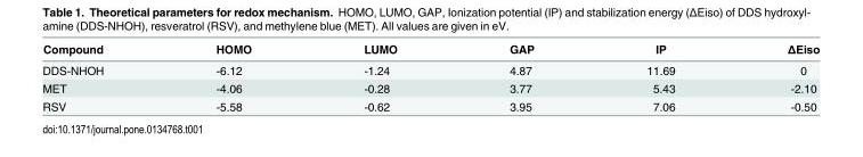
<table><thead><tr><td>Compound</td><td>HOMO</td><td>LUMO</td><td>GAP</td><td>IP</td><td>ΔEiso</td></tr></thead><tbody><tr><td>DDS-NHOH</td><td>-6.12</td><td>-1.24</td><td>4.87</td><td>11.69</td><td>0</td></tr><tr><td>MET</td><td>-4.06</td><td>-0.28</td><td>3.77</td><td>5.43</td><td>-2.10</td></tr><tr><td>RSV</td><td>-5.58</td><td>-0.62</td><td>3.95</td><td>7.06</td><td>-0.50</td></tr></tbody></table>